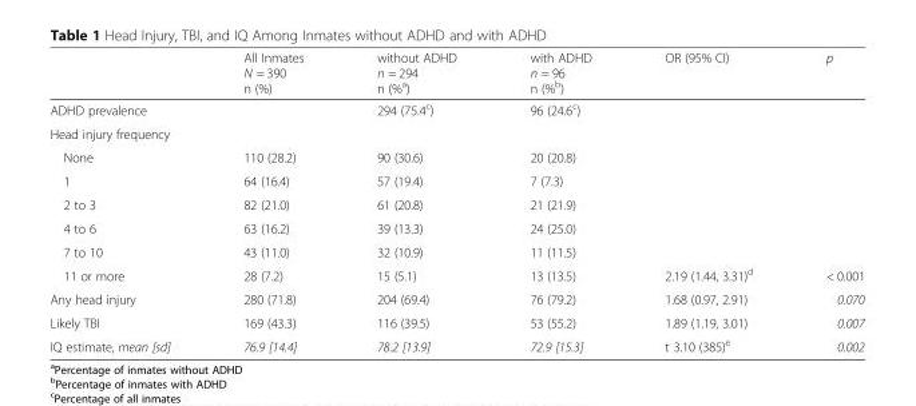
<table><thead><tr><td></td><td>All Inmates N = 390 n (%)</td><td>without ADHD n = 294 n (%<sup>a</sup>)</td><td>with ADHD n = 96 n (%<sup>b</sup>)</td><td>OR (95% CI)</td><td>p</td></tr></thead><tbody><tr><td>ADHD prevalence</td><td></td><td>294 (75.4<sup>c</sup>)</td><td>96 (24.6<sup>c</sup>)</td><td></td><td></td></tr><tr><td colspan="6">Head injury frequency</td></tr><tr><td>None</td><td>110 (28.2)</td><td>90 (30.6)</td><td>20 (20.8)</td><td></td><td></td></tr><tr><td>1</td><td>64 (16.4)</td><td>57 (19.4)</td><td>7 (7.3)</td><td></td><td></td></tr><tr><td>2 to 3</td><td>82 (21.0)</td><td>61 (20.8)</td><td>21 (21.9)</td><td></td><td></td></tr><tr><td>4 to 6</td><td>63 (16.2)</td><td>39 (13.3)</td><td>24 (25.0)</td><td></td><td></td></tr><tr><td>7 to 10</td><td>43 (11.0)</td><td>32 (10.9)</td><td>11 (11.5)</td><td></td><td></td></tr><tr><td>11 or more</td><td>28 (7.2)</td><td>15 (5.1)</td><td>13 (13.5)</td><td>2.19 (1.44, 3.31)<sup>d</sup></td><td>&lt; 0.001</td></tr><tr><td>Any head injury</td><td>280 (71.8)</td><td>204 (69.4)</td><td>76 (79.2)</td><td>1.68 (0.97, 2.91)</td><td>0.070</td></tr><tr><td>Likely TBI</td><td>169 (43.3)</td><td>116 (39.5)</td><td>53 (55.2)</td><td>1.89 (1.19, 3.01)</td><td>0.007</td></tr><tr><td>IQ estimate, mean [sd]</td><td>76.9 [14.4]</td><td>78.2 [13.9]</td><td>72.9 [15.3]</td><td>t 3.10 (385)<sup>e</sup></td><td>0.002</td></tr></tbody></table>